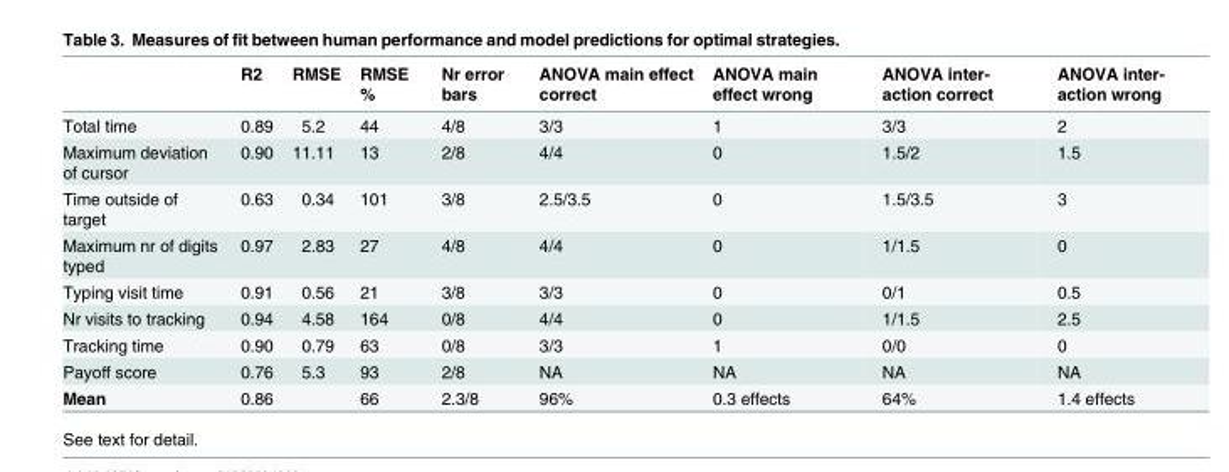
<table><thead><tr><td></td><td>R2</td><td>RMSE</td><td>RMSE %</td><td>Nr error bars</td><td>ANOVA main effect correct</td><td>ANOVA main effect wrong</td><td>ANOVA inter- action correct</td><td>ANOVA inter- action wrong</td></tr></thead><tbody><tr><td>Total time</td><td>0.89</td><td>5.2</td><td>44</td><td>4/8</td><td>3/3</td><td>1</td><td>3/3</td><td>2</td></tr><tr><td>Maximum deviation of cursor</td><td>0.90</td><td>11.11</td><td>13</td><td>2/8</td><td>4/4</td><td>0</td><td>1.5/2</td><td>1.5</td></tr><tr><td>Time outside of target</td><td>0.63</td><td>0.34</td><td>101</td><td>3/8</td><td>2.5/3.5</td><td>0</td><td>1.5/3.5</td><td>3</td></tr><tr><td>Maximum nr of digits typed</td><td>0.97</td><td>2.83</td><td>27</td><td>4/8</td><td>4/4</td><td>0</td><td>1/1.5</td><td>0</td></tr><tr><td>Typing visit time</td><td>0.91</td><td>0.56</td><td>21</td><td>3/8</td><td>3/3</td><td>0</td><td>0/1</td><td>0.5</td></tr><tr><td>Nr visits to tracking</td><td>0.94</td><td>4.58</td><td>164</td><td>0/8</td><td>4/4</td><td>0</td><td>1/1.5</td><td>2.5</td></tr><tr><td>Tracking time</td><td>0.90</td><td>0.79</td><td>63</td><td>0/8</td><td>3/3</td><td>1</td><td>0/0</td><td>0</td></tr><tr><td>Payoff score</td><td>0.76</td><td>5.3</td><td>93</td><td>2/8</td><td>NA</td><td>NA</td><td>NA</td><td>NA</td></tr><tr><td>Mean</td><td>0.86</td><td></td><td>66</td><td>2.3/8</td><td>96%</td><td>0.3 effects</td><td>64%</td><td>1.4 effects</td></tr></tbody></table>